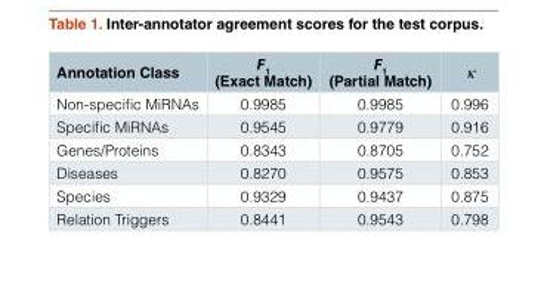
<table><thead><tr><td>Annotation Class</td><td>F1 (Exact Match)</td><td>F1 (Partial Match)</td><td>κ</td></tr></thead><tbody><tr><td>Non-specific MiRNAs</td><td>0.9985</td><td>0.9985</td><td>0.996</td></tr><tr><td>Specific MiRNAs</td><td>0.9545</td><td>0.9779</td><td>0.916</td></tr><tr><td>Genes/Proteins</td><td>0.8343</td><td>0.8705</td><td>0.752</td></tr><tr><td>Diseases</td><td>0.8270</td><td>0.9575</td><td>0.853</td></tr><tr><td>Species</td><td>0.9329</td><td>0.9437</td><td>0.875</td></tr><tr><td>Relation Triggers</td><td>0.8441</td><td>0.9543</td><td>0.798</td></tr></tbody></table>